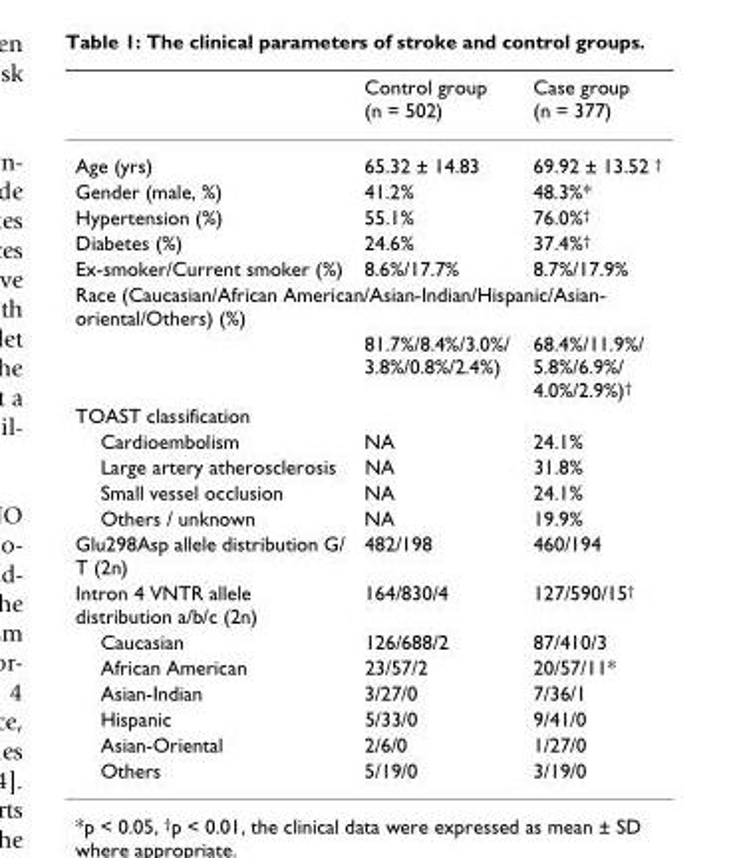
<table><thead><tr><td></td><td>Control group (n = 502)</td><td>Case group (n = 377)</td></tr></thead><tbody><tr><td>Age (yrs)</td><td>65.32 ± 14.83</td><td>69.92 ± 13.52 <sup>†</sup></td></tr><tr><td>Gender (male, %)</td><td>41.2%</td><td>48.3%*</td></tr><tr><td>Hypertension (%)</td><td>55.1%</td><td>76.0%<sup>†</sup></td></tr><tr><td>Diabetes (%)</td><td>24.6%</td><td>37.4%<sup>†</sup></td></tr><tr><td>Ex-smoker/Current smoker (%)</td><td>8.6%/17.7%</td><td>8.7%/17.9%</td></tr><tr><td colspan="3">Race (Caucasian/African American/Asian-Indian/Hispanic/Asian- oriental/Others) (%)</td></tr><tr><td></td><td>81.7%/8.4%/3.0%/ 3.8%/0.8%/2.4%)</td><td>68.4%/11.9%/ 5.8%/6.9%/ 4.0%/2.9%)<sup>†</sup></td></tr><tr><td colspan="3">TOAST classification</td></tr><tr><td>Cardioembolism</td><td>NA</td><td>24.1%</td></tr><tr><td>Large artery atherosclerosis</td><td>NA</td><td>31.8%</td></tr><tr><td>Small vessel occlusion</td><td>NA</td><td>24.1%</td></tr><tr><td>Others / unknown</td><td>NA</td><td>19.9%</td></tr><tr><td>Glu298Asp allele distribution G/ T (2n)</td><td>482/198</td><td>460/194</td></tr><tr><td>Intron 4 VNTR allele distribution a/b/c (2n)</td><td>164/830/4</td><td>127/590/15<sup>†</sup></td></tr><tr><td>Caucasian</td><td>126/688/2</td><td>87/410/3</td></tr><tr><td>African American</td><td>23/57/2</td><td>20/57/11*</td></tr><tr><td>Asian-Indian</td><td>3/27/0</td><td>7/36/1</td></tr><tr><td>Hispanic</td><td>5/33/0</td><td>9/41/0</td></tr><tr><td>Asian-Oriental</td><td>2/6/0</td><td>1/27/0</td></tr><tr><td>Others</td><td>5/19/0</td><td>3/19/0</td></tr></tbody></table>